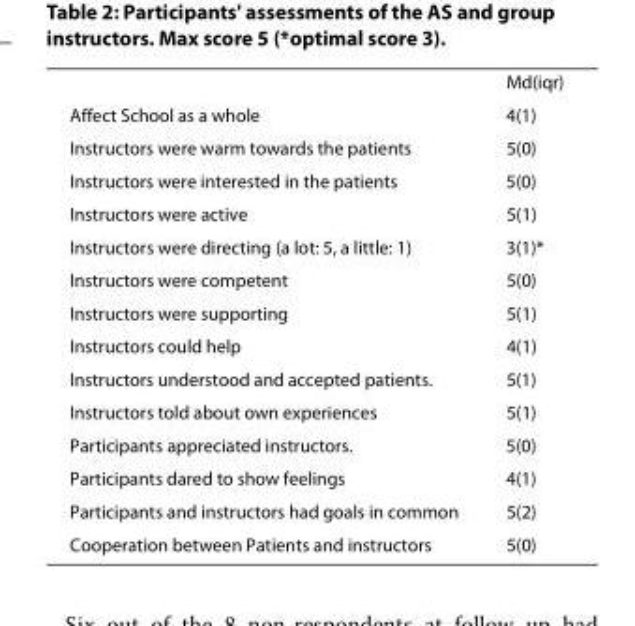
<table><thead><tr><td></td><td>Md(iqr)</td></tr></thead><tbody><tr><td>Affect School as a whole</td><td>4(1)</td></tr><tr><td>Instructors were warm towards the patients</td><td>5(0)</td></tr><tr><td>Instructors were interested in the patients</td><td>5(0)</td></tr><tr><td>Instructors were active</td><td>5(1)</td></tr><tr><td>Instructors were directing (a lot: 5, a little: 1)</td><td>3(1)*</td></tr><tr><td>Instructors were competent</td><td>5(0)</td></tr><tr><td>Instructors were supporting</td><td>5(1)</td></tr><tr><td>Instructors could help</td><td>4(1)</td></tr><tr><td>Instructors understood and accepted patients.</td><td>5(1)</td></tr><tr><td>Instructors told about own experiences</td><td>5(1)</td></tr><tr><td>Participants appreciated instructors.</td><td>5(0)</td></tr><tr><td>Participants dared to show feelings</td><td>4(1)</td></tr><tr><td>Participants and instructors had goals in common</td><td>5(2)</td></tr><tr><td>Cooperation between Patients and instructors</td><td>5(0)</td></tr></tbody></table>